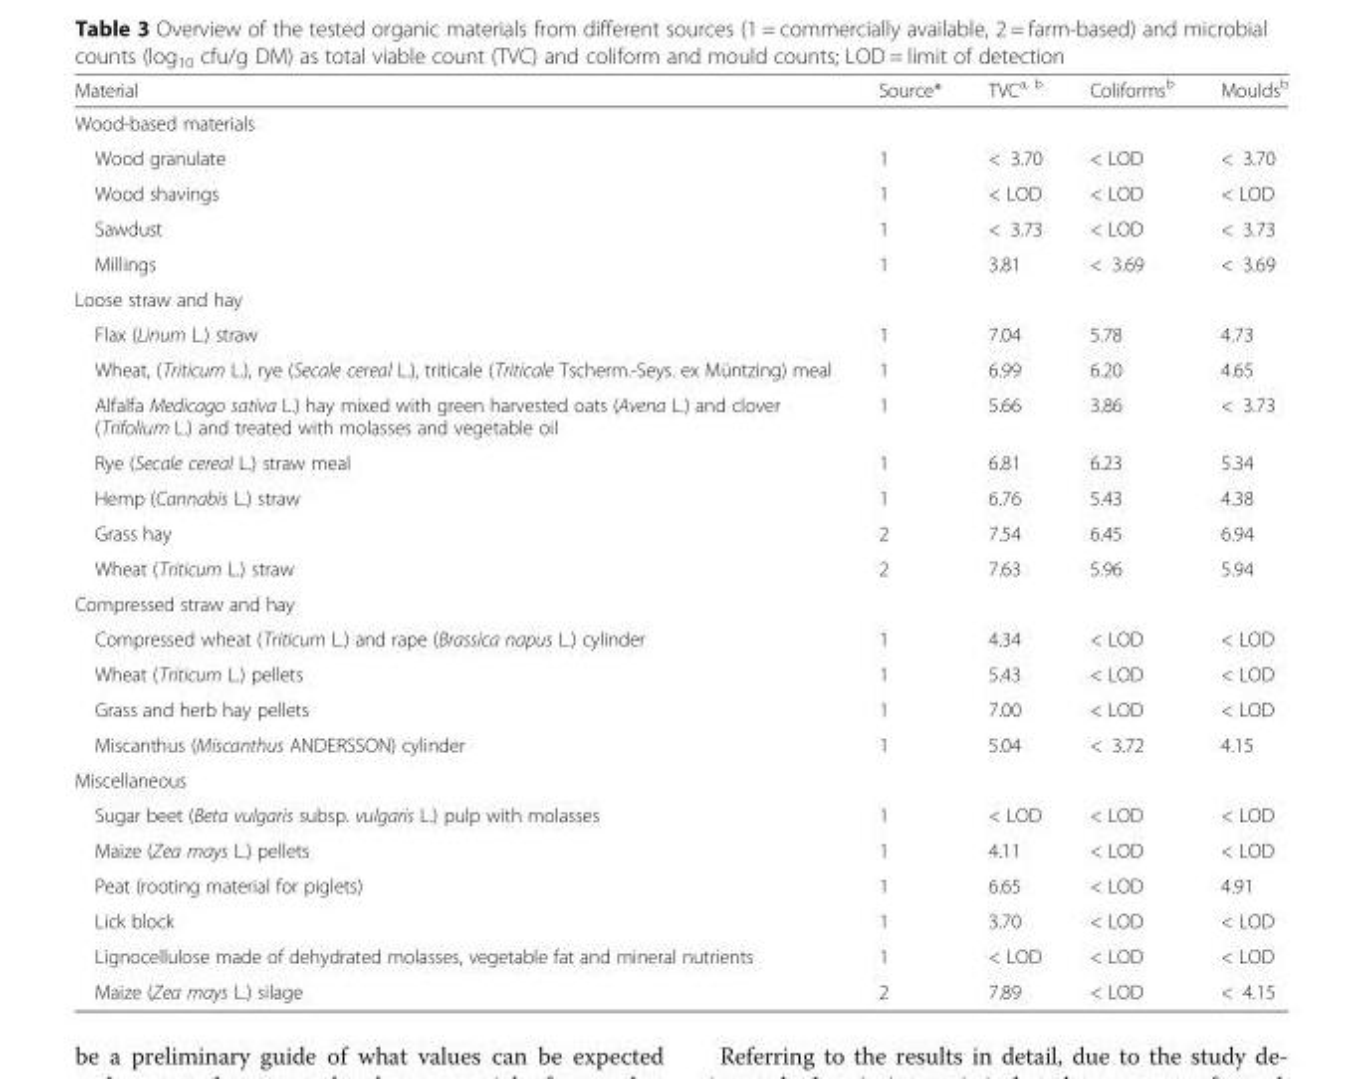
<table><thead><tr><td>Material</td><td>Source*</td><td>TVC<sup>a, b</sup></td><td>Coliforms<sup>b</sup></td><td>Moulds<sup>b</sup></td></tr></thead><tbody><tr><td colspan="5">Wood-based materials</td></tr><tr><td>Wood granulate</td><td>1</td><td>&lt; 3.70</td><td>&lt; LOD</td><td>&lt; 3.70</td></tr><tr><td>Wood shavings</td><td>1</td><td>&lt; LOD</td><td>&lt; LOD</td><td>&lt; LOD</td></tr><tr><td>Sawdust</td><td>1</td><td>&lt; 3.73</td><td>&lt; LOD</td><td>&lt; 3.73</td></tr><tr><td>Millings</td><td>1</td><td>3.81</td><td>&lt; 3.69</td><td>&lt; 3.69</td></tr><tr><td colspan="5">Loose straw and hay</td></tr><tr><td>Flax (Linum L.) straw</td><td>1</td><td>7.04</td><td>5.78</td><td>4.73</td></tr><tr><td>Wheat, (Triticum L.), rye (Secale cereal L.), triticale (Triticale Tscherm.-Seys. ex Müntzing) meal</td><td>1</td><td>6.99</td><td>6.20</td><td>4.65</td></tr><tr><td>Alfalfa Medicago sativa L.) hay mixed with green harvested oats (Avena L.) and clover (Trifolium L.) and treated with molasses and vegetable oil</td><td>1</td><td>5.66</td><td>3.86</td><td>&lt; 3.73</td></tr><tr><td>Rye (Secale cereal L.) straw meal</td><td>1</td><td>6.81</td><td>6.23</td><td>5.34</td></tr><tr><td>Hemp (Cannabis L.) straw</td><td>1</td><td>6.76</td><td>5.43</td><td>4.38</td></tr><tr><td>Grass hay</td><td>2</td><td>7.54</td><td>6.45</td><td>6.94</td></tr><tr><td>Wheat (Triticum L.) straw</td><td>2</td><td>7.63</td><td>5.96</td><td>5.94</td></tr><tr><td colspan="5">Compressed straw and hay</td></tr><tr><td>Compressed wheat (Triticum L.) and rape (Brassica napus L.) cylinder</td><td>1</td><td>4.34</td><td>&lt; LOD</td><td>&lt; LOD</td></tr><tr><td>Wheat (Triticum L.) pellets</td><td>1</td><td>5.43</td><td>&lt; LOD</td><td>&lt; LOD</td></tr><tr><td>Grass and herb hay pellets</td><td>1</td><td>7.00</td><td>&lt; LOD</td><td>&lt; LOD</td></tr><tr><td>Miscanthus (Miscanthus ANDERSSON) cylinder</td><td>1</td><td>5.04</td><td>&lt; 3.72</td><td>4.15</td></tr><tr><td colspan="5">Miscellaneous</td></tr><tr><td>Sugar beet (Beta vulgaris subsp. vulgaris L.) pulp with molasses</td><td>1</td><td>&lt; LOD</td><td>&lt; LOD</td><td>&lt; LOD</td></tr><tr><td>Maize (Zea mays L.) pellets</td><td>1</td><td>4.11</td><td>&lt; LOD</td><td>&lt; LOD</td></tr><tr><td>Peat (rooting material for piglets)</td><td>1</td><td>6.65</td><td>&lt; LOD</td><td>4.91</td></tr><tr><td>Lick block</td><td>1</td><td>3.70</td><td>&lt; LOD</td><td>&lt; LOD</td></tr><tr><td>Lignocellulose made of dehydrated molasses, vegetable fat and mineral nutrients</td><td>1</td><td>&lt; LOD</td><td>&lt; LOD</td><td>&lt; LOD</td></tr><tr><td>Maize (Zea mays L.) silage</td><td>2</td><td>7.89</td><td>&lt; LOD</td><td>&lt; 4.15</td></tr></tbody></table>